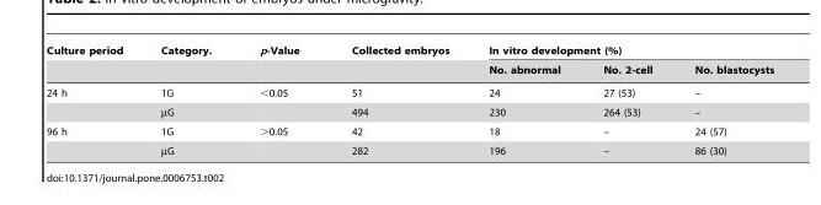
<table><thead><tr><td rowspan="2">Culture period</td><td rowspan="2">Category.</td><td rowspan="2">p-Value</td><td rowspan="2">Collected embryos</td><td colspan="3">In vitro development (%)</td></tr><tr><td>No. abnormal</td><td>No. 2-cell</td><td>No. blastocysts</td></tr></thead><tbody><tr><td rowspan="2">24 h</td><td>1G</td><td>&lt;0.05</td><td>51</td><td>24</td><td>27 (53)</td><td>–</td></tr><tr><td>µG</td><td></td><td>494</td><td>230</td><td>264 (53)</td><td>–</td></tr><tr><td rowspan="2">96 h</td><td>1G</td><td>&gt;0.05</td><td>42</td><td>18</td><td>–</td><td>24 (57)</td></tr><tr><td>µG</td><td></td><td>282</td><td>196</td><td>–</td><td>86 (30)</td></tr></tbody></table>